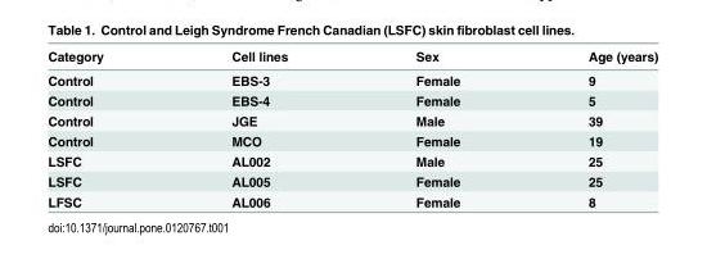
<table><thead><tr><td>Category</td><td>Cell lines</td><td>Sex</td><td>Age (years)</td></tr></thead><tbody><tr><td>Control</td><td>EBS-3</td><td>Female</td><td>9</td></tr><tr><td>Control</td><td>EBS-4</td><td>Female</td><td>5</td></tr><tr><td>Control</td><td>JGE</td><td>Male</td><td>39</td></tr><tr><td>Control</td><td>MCO</td><td>Female</td><td>19</td></tr><tr><td>LSFC</td><td>AL002</td><td>Male</td><td>25</td></tr><tr><td>LSFC</td><td>AL005</td><td>Female</td><td>25</td></tr><tr><td>LFSC</td><td>AL006</td><td>Female</td><td>8</td></tr></tbody></table>